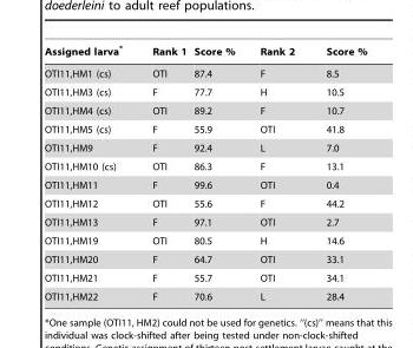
<table><thead><tr><td>Assigned larva*</td><td>Rank 1</td><td>Score %</td><td>Rank 2</td><td>Score %</td></tr></thead><tbody><tr><td>OTI11,HM1 (cs)</td><td>OTI</td><td>87.4</td><td>F</td><td>8.5</td></tr><tr><td>OTI11,HM3 (cs)</td><td>F</td><td>77.7</td><td>H</td><td>10.5</td></tr><tr><td>OTI11,HM4 (cs)</td><td>OTI</td><td>89.2</td><td>F</td><td>10.7</td></tr><tr><td>OTI11,HM5 (cs)</td><td>F</td><td>55.9</td><td>OTI</td><td>41.8</td></tr><tr><td>OTI11,HM9</td><td>F</td><td>92.4</td><td>L</td><td>7.0</td></tr><tr><td>OTI11,HM10 (cs)</td><td>OTI</td><td>86.3</td><td>F</td><td>13.1</td></tr><tr><td>OTI11,HM11</td><td>F</td><td>99.6</td><td>OTI</td><td>0.4</td></tr><tr><td>OTI11,HM12</td><td>OTI</td><td>55.6</td><td>F</td><td>44.2</td></tr><tr><td>OTI11,HM13</td><td>F</td><td>97.1</td><td>OTI</td><td>2.7</td></tr><tr><td>OTI11,HM19</td><td>OTI</td><td>80.5</td><td>H</td><td>14.6</td></tr><tr><td>OTI11,HM20</td><td>F</td><td>64.7</td><td>OTI</td><td>33.1</td></tr><tr><td>OTI11,HM21</td><td>F</td><td>55.7</td><td>OTI</td><td>34.1</td></tr><tr><td>OTI11,HM22</td><td>F</td><td>70.6</td><td>L</td><td>28.4</td></tr></tbody></table>